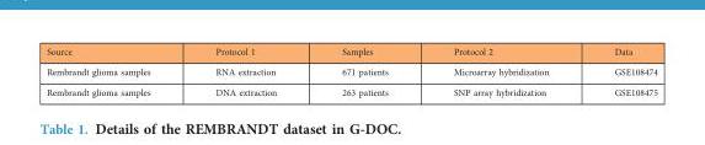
<table><thead><tr><td>Source</td><td>Protocol 1</td><td>Samples</td><td>Protocol 2</td><td>Data</td></tr></thead><tbody><tr><td>Rembrandt glioma samples</td><td>RNA extraction</td><td>671 patients</td><td>Microarray hybridization</td><td>GSE108474</td></tr><tr><td>Rembrandt glioma samples</td><td>DNA extraction</td><td>263 patients</td><td>SNP array hybridization</td><td>GSE108475</td></tr></tbody></table>